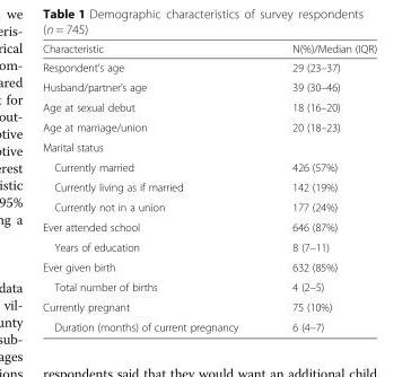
<table><thead><tr><td>Characteristic</td><td>N(%)/Median (IQR)</td></tr></thead><tbody><tr><td>Respondent’s age</td><td>29 (23–37)</td></tr><tr><td>Husband/partner’s age</td><td>39 (30–46)</td></tr><tr><td>Age at sexual debut</td><td>18 (16–20)</td></tr><tr><td>Age at marriage/union</td><td>20 (18–23)</td></tr><tr><td colspan="2">Marital status</td></tr><tr><td>Currently married</td><td>426 (57%)</td></tr><tr><td>Currently living as if married</td><td>142 (19%)</td></tr><tr><td>Currently not in a union</td><td>177 (24%)</td></tr><tr><td>Ever attended school</td><td>646 (87%)</td></tr><tr><td>Years of education</td><td>8 (7–11)</td></tr><tr><td>Ever given birth</td><td>632 (85%)</td></tr><tr><td>Total number of births</td><td>4 (2–5)</td></tr><tr><td>Currently pregnant</td><td>75 (10%)</td></tr><tr><td>Duration (months) of current pregnancy</td><td>6 (4–7)</td></tr></tbody></table>